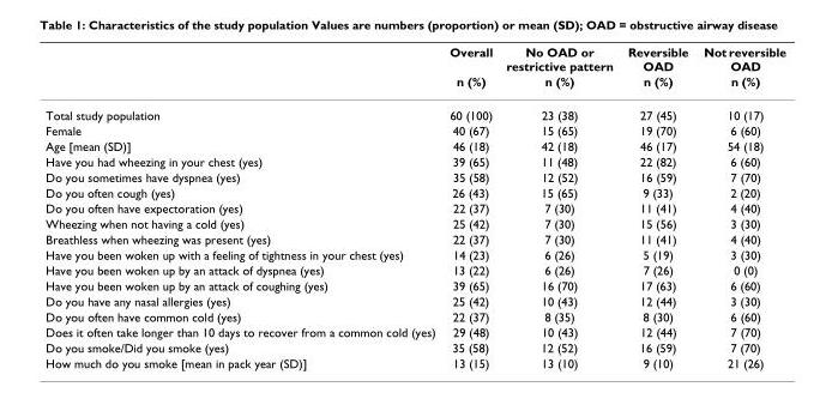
<table><thead><tr><td rowspan="2"></td><td rowspan="2">Overall n (%)</td><td rowspan="2">No OAD or restrictive pattern n (%)</td><td rowspan="2">Reversible OAD n (%)</td><td rowspan="2">Not reversible OAD n (%)</td></tr><tr></tr></thead><tbody><tr><td>Total study population</td><td>60 (100)</td><td>23 (38)</td><td>27 (45)</td><td>10 (17)</td></tr><tr><td>Female</td><td>40 (67)</td><td>15 (65)</td><td>19 (70)</td><td>6 (60)</td></tr><tr><td>Age [mean (SD)]</td><td>46 (18)</td><td>42 (18)</td><td>46 (17)</td><td>54 (18)</td></tr><tr><td>Have you had wheezing in your chest (yes)</td><td>39 (65)</td><td>11 (48)</td><td>22 (82)</td><td>6 (60)</td></tr><tr><td>Do you sometimes have dyspnea (yes)</td><td>35 (58)</td><td>12 (52)</td><td>16 (59)</td><td>7 (70)</td></tr><tr><td>Do you often cough (yes)</td><td>26 (43)</td><td>15 (65)</td><td>9 (33)</td><td>2 (20)</td></tr><tr><td>Do you often have expectoration (yes)</td><td>22 (37)</td><td>7 (30)</td><td>11 (41)</td><td>4 (40)</td></tr><tr><td>Wheezing when not having a cold (yes)</td><td>25 (42)</td><td>7 (30)</td><td>15 (56)</td><td>3 (30)</td></tr><tr><td>Breathless when wheezing was present (yes)</td><td>22 (37)</td><td>7 (30)</td><td>11 (41)</td><td>4 (40)</td></tr><tr><td>Have you been woken up with a feeling of tightness in your chest (yes)</td><td>14 (23)</td><td>6 (26)</td><td>5 (19)</td><td>3 (30)</td></tr><tr><td>Have you been woken up by an attack of dyspnea (yes)</td><td>13 (22)</td><td>6 (26)</td><td>7 (26)</td><td>0 (0)</td></tr><tr><td>Have you been woken up by an attack of coughing (yes)</td><td>39 (65)</td><td>16 (70)</td><td>17 (63)</td><td>6 (60)</td></tr><tr><td>Do you have any nasal allergies (yes)</td><td>25 (42)</td><td>10 (43)</td><td>12 (44)</td><td>3 (30)</td></tr><tr><td>Do you often have common cold (yes)</td><td>22 (37)</td><td>8 (35)</td><td>8 (30)</td><td>6 (60)</td></tr><tr><td>Does it often take longer than 10 days to recover from a common cold (yes)</td><td>29 (48)</td><td>10 (43)</td><td>12 (44)</td><td>7 (70)</td></tr><tr><td>Do you smoke/Did you smoke (yes)</td><td>35 (58)</td><td>12 (52)</td><td>16 (59)</td><td>7 (70)</td></tr><tr><td>How much do you smoke [mean in pack year (SD)]</td><td>13 (15)</td><td>13 (10)</td><td>9 (10)</td><td>21 (26)</td></tr></tbody></table>